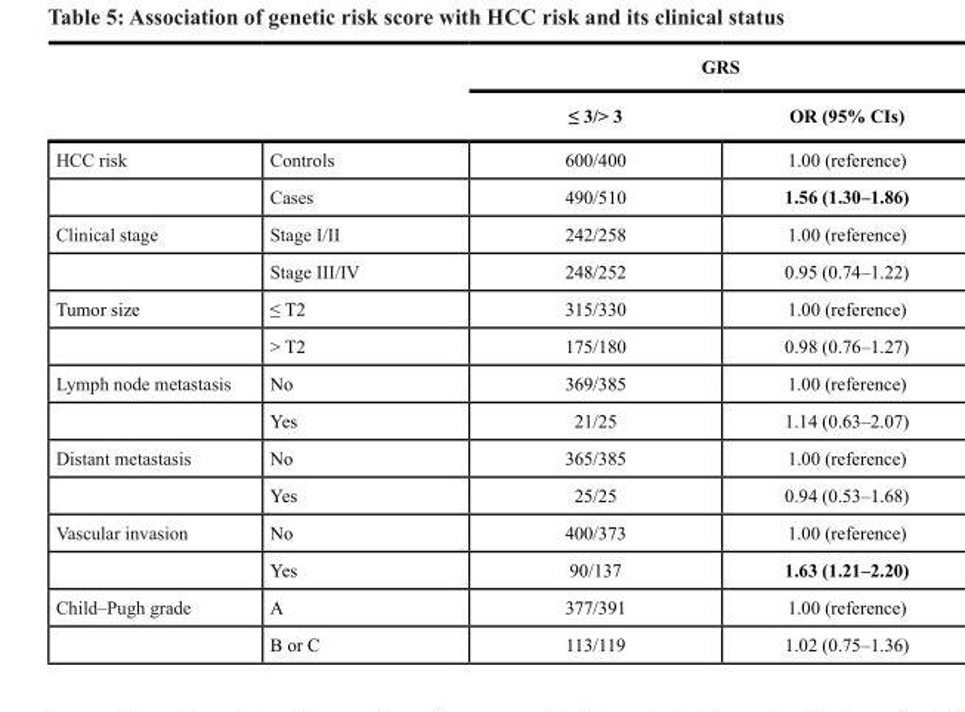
<table><thead><tr><td rowspan="2"></td><td rowspan="2"></td><td colspan="2">GRS</td></tr><tr><td>≤ 3/&gt; 3</td><td>OR (95% CIs)</td></tr></thead><tbody><tr><td rowspan="2">HCC risk</td><td>Controls</td><td>600/400</td><td>1.00 (reference)</td></tr><tr><td>Cases</td><td>490/510</td><td>1.56 (1.30–1.86)</td></tr><tr><td rowspan="2">Clinical stage</td><td>Stage I/II</td><td>242/258</td><td>1.00 (reference)</td></tr><tr><td>Stage III/IV</td><td>248/252</td><td>0.95 (0.74–1.22)</td></tr><tr><td rowspan="2">Tumor size</td><td>≤ T2</td><td>315/330</td><td>1.00 (reference)</td></tr><tr><td>&gt; T2</td><td>175/180</td><td>0.98 (0.76–1.27)</td></tr><tr><td rowspan="2">Lymph node metastasis</td><td>No</td><td>369/385</td><td>1.00 (reference)</td></tr><tr><td>Yes</td><td>21/25</td><td>1.14 (0.63–2.07)</td></tr><tr><td rowspan="2">Distant metastasis</td><td>No</td><td>365/385</td><td>1.00 (reference)</td></tr><tr><td>Yes</td><td>25/25</td><td>0.94 (0.53–1.68)</td></tr><tr><td rowspan="2">Vascular invasion</td><td>No</td><td>400/373</td><td>1.00 (reference)</td></tr><tr><td>Yes</td><td>90/137</td><td>1.63 (1.21–2.20)</td></tr><tr><td rowspan="2">Child–Pugh grade</td><td>A</td><td>377/391</td><td>1.00 (reference)</td></tr><tr><td>B or C</td><td>113/119</td><td>1.02 (0.75–1.36)</td></tr></tbody></table>